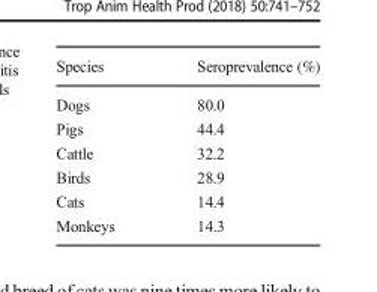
<table><thead><tr><td>Species</td><td>Seroprevalence (%)</td></tr></thead><tbody><tr><td>Dogs</td><td>80.0</td></tr><tr><td>Pigs</td><td>44.4</td></tr><tr><td>Cattle</td><td>32.2</td></tr><tr><td>Birds</td><td>28.9</td></tr><tr><td>Cats</td><td>14.4</td></tr><tr><td>Monkeys</td><td>14.3</td></tr></tbody></table>